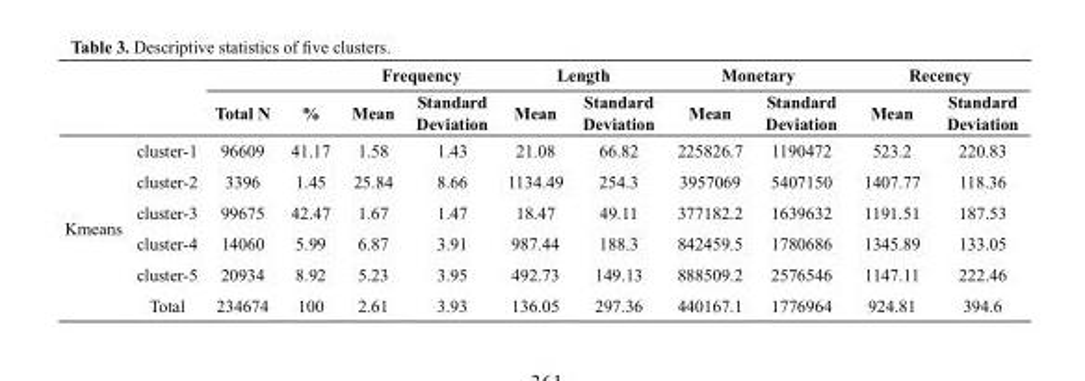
<table><thead><tr><td rowspan="2"></td><td rowspan="2"></td><td rowspan="2">Total N</td><td rowspan="2">%</td><td colspan="2">Frequency</td><td colspan="2">Length</td><td colspan="2">Monetary</td><td colspan="2">Recency</td></tr><tr><td>Mean</td><td>Standard Deviation</td><td>Mean</td><td>Standard Deviation</td><td>Mean</td><td>Standard Deviation</td><td>Mean</td><td>Standard Deviation</td></tr></thead><tbody><tr><td rowspan="6">Kmeans</td><td>cluster-1</td><td>96609</td><td>41.17</td><td>1.58</td><td>1.43</td><td>21.08</td><td>66.82</td><td>225826.7</td><td>1190472</td><td>523.2</td><td>220.83</td></tr><tr><td>cluster-2</td><td>3396</td><td>1.45</td><td>25.84</td><td>8.66</td><td>1134.49</td><td>254.3</td><td>3957069</td><td>5407150</td><td>1407.77</td><td>118.36</td></tr><tr><td>cluster-3</td><td>99675</td><td>42.47</td><td>1.67</td><td>1.47</td><td>18.47</td><td>49.11</td><td>377182.2</td><td>1639632</td><td>1191.51</td><td>187.53</td></tr><tr><td>cluster-4</td><td>14060</td><td>5.99</td><td>6.87</td><td>3.91</td><td>987.44</td><td>188.3</td><td>842459.5</td><td>1780686</td><td>1345.89</td><td>133.05</td></tr><tr><td>cluster-5</td><td>20934</td><td>8.92</td><td>5.23</td><td>3.95</td><td>492.73</td><td>149.13</td><td>888509.2</td><td>2576546</td><td>1147.11</td><td>222.46</td></tr><tr><td>Total</td><td>234674</td><td>100</td><td>2.61</td><td>3.93</td><td>136.05</td><td>297.36</td><td>440167.1</td><td>1776964</td><td>924.81</td><td>394.6</td></tr></tbody></table>